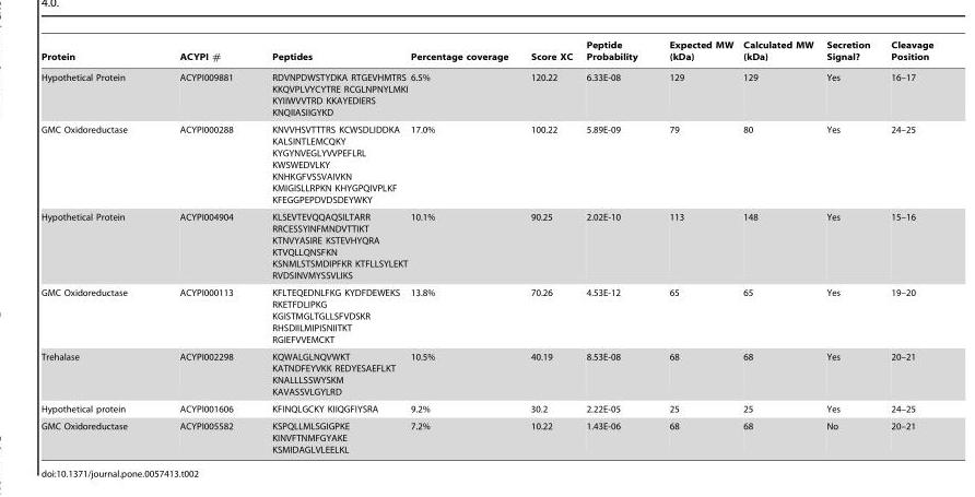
<table><thead><tr><td>Protein</td><td>ACYPI #</td><td>Peptides</td><td>Percentage coverage</td><td>Score XC</td><td>Peptide Probability</td><td>Expected MW (kDa)</td><td>Calculated MW (kDa)</td><td>Secretion Signal?</td><td>Cleavage Position</td></tr></thead><tbody><tr><td>Hypothetical Protein</td><td>ACYPI009881</td><td>RDVNPDWSTYDKA RTGEVHMTRS KKQVPLVYCYTRE RCGLNPNYLMKI KYIIWVVTRD KKAYEDIERS KNQIIASIIGYKD</td><td>6.5%</td><td>120.22</td><td>6.33E-08</td><td>129</td><td>129</td><td>Yes</td><td>16–17</td></tr><tr><td>GMC Oxidoreductase</td><td>ACYPI000288</td><td>KNVVHSVTTTRS KCWSDLIDDKA KALSINTLEMCQKY KYGYNVEGLYVVPEFLRL KWSWEDVLKY KNHKGFVSSVAIVKN KMIGISLLRPKN KHYGPQIVPLKF KFEGGPEPDVDSDEYWKY</td><td>17.0%</td><td>100.22</td><td>5.89E-09</td><td>79</td><td>80</td><td>Yes</td><td>24–25</td></tr><tr><td>Hypothetical Protein</td><td>ACYPI004904</td><td>KLSEVTEVQQAQSILTARR RRCESSYINFMNDVTTIKT KTNVYASIRE KSTEVHYQRA KTVQLLQNSFKN KSNMLSTSMDIPFKR KTFLLSYLEKT RVDSINVMYSSVLIKS</td><td>10.1%</td><td>90.25</td><td>2.02E-10</td><td>113</td><td>148</td><td>Yes</td><td>15–16</td></tr><tr><td>GMC Oxidoreductase</td><td>ACYPI000113</td><td>KFLTEQEDNLFKG KYDFDEWEKS RKETFDLIPKG KGISTMGLTGLLSFVDSKR RHSDIILMIPISNIITKT RGIEFVVEMCKT</td><td>13.8%</td><td>70.26</td><td>4.53E-12</td><td>65</td><td>65</td><td>Yes</td><td>19–20</td></tr><tr><td>Trehalase</td><td>ACYPI002298</td><td>KQWALGLNQVWKT KATNDFEYVKK REDYESAEFLKT KNALLLSSWYSKM KAVASSVLGYLRD</td><td>10.5%</td><td>40.19</td><td>8.53E-08</td><td>68</td><td>68</td><td>Yes</td><td>20–21</td></tr><tr><td>Hypothetical protein</td><td>ACYPI001606</td><td>KFINQLGCKY KIIQGFIYSRA</td><td>9.2%</td><td>30.2</td><td>2.22E-05</td><td>25</td><td>25</td><td>Yes</td><td>24–25</td></tr><tr><td>GMC Oxidoreductase</td><td>ACYPI005582</td><td>KSPQLLMLSGIGPKE KINVFTNMFGYAKE KSMIDAGLVLEELKL</td><td>7.2%</td><td>10.22</td><td>1.43E-06</td><td>68</td><td>68</td><td>No</td><td>20–21</td></tr></tbody></table>